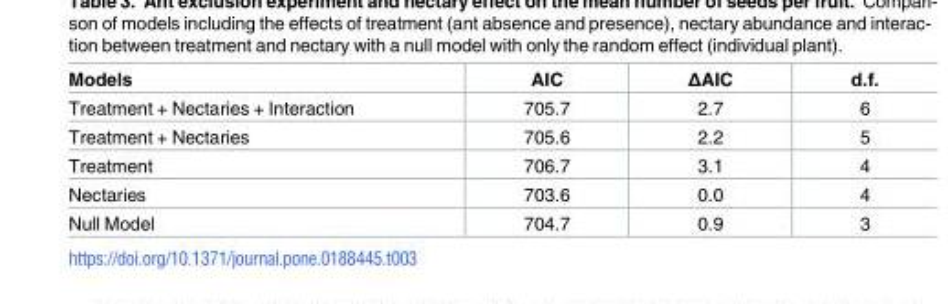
<table><thead><tr><td>Models</td><td>AIC</td><td>ΔAIC</td><td>d.f.</td></tr></thead><tbody><tr><td>Treatment + Nectaries + Interaction</td><td>705.7</td><td>2.7</td><td>6</td></tr><tr><td>Treatment + Nectaries</td><td>705.6</td><td>2.2</td><td>5</td></tr><tr><td>Treatment</td><td>706.7</td><td>3.1</td><td>4</td></tr><tr><td>Nectaries</td><td>703.6</td><td>0.0</td><td>4</td></tr><tr><td>Null Model</td><td>704.7</td><td>0.9</td><td>3</td></tr></tbody></table>